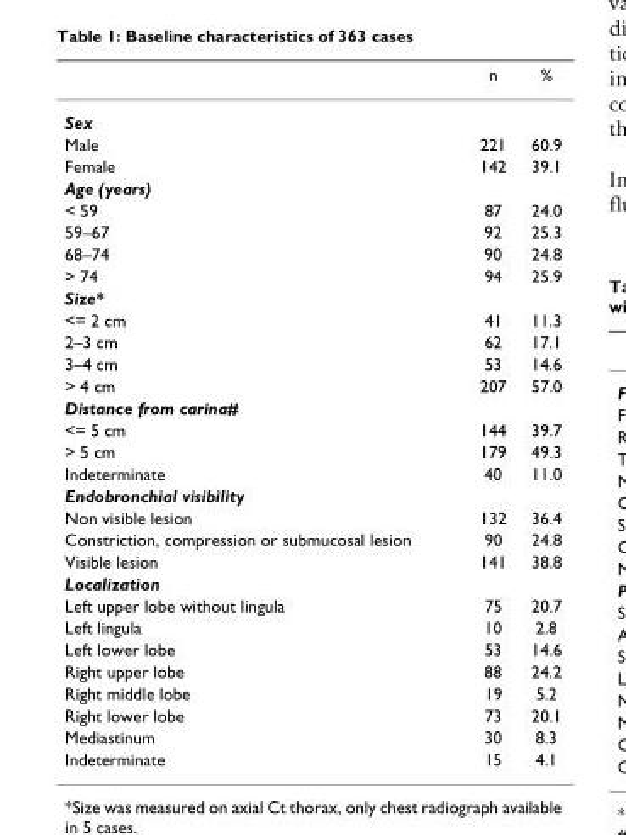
<table><thead><tr><td></td><td>n</td><td>%</td></tr></thead><tbody><tr><td colspan="3">Sex</td></tr><tr><td>Male</td><td>221</td><td>60.9</td></tr><tr><td>Female</td><td>142</td><td>39.1</td></tr><tr><td colspan="3">Age (years)</td></tr><tr><td>&lt; 59</td><td>87</td><td>24.0</td></tr><tr><td>59–67</td><td>92</td><td>25.3</td></tr><tr><td>68–74</td><td>90</td><td>24.8</td></tr><tr><td>&gt; 74</td><td>94</td><td>25.9</td></tr><tr><td colspan="3">Size*</td></tr><tr><td>&lt;= 2 cm</td><td>41</td><td>11.3</td></tr><tr><td>2–3 cm</td><td>62</td><td>17.1</td></tr><tr><td>3–4 cm</td><td>53</td><td>14.6</td></tr><tr><td>&gt; 4 cm</td><td>207</td><td>57.0</td></tr><tr><td colspan="3">Distance from carina#</td></tr><tr><td>&lt;= 5 cm</td><td>144</td><td>39.7</td></tr><tr><td>&gt; 5 cm</td><td>179</td><td>49.3</td></tr><tr><td>Indeterminate</td><td>40</td><td>11.0</td></tr><tr><td colspan="3">Endobronchial visibility</td></tr><tr><td>Non visible lesion</td><td>132</td><td>36.4</td></tr><tr><td>Constriction, compression or submucosal lesion</td><td>90</td><td>24.8</td></tr><tr><td>Visible lesion</td><td>141</td><td>38.8</td></tr><tr><td colspan="3">Localization</td></tr><tr><td>Left upper lobe without lingula</td><td>75</td><td>20.7</td></tr><tr><td>Left lingula</td><td>10</td><td>2.8</td></tr><tr><td>Left lower lobe</td><td>53</td><td>14.6</td></tr><tr><td>Right upper lobe</td><td>88</td><td>24.2</td></tr><tr><td>Right middle lobe</td><td>19</td><td>5.2</td></tr><tr><td>Right lower lobe</td><td>73</td><td>20.1</td></tr><tr><td>Mediastinum</td><td>30</td><td>8.3</td></tr><tr><td>Indeterminate</td><td>15</td><td>4.1</td></tr></tbody></table>